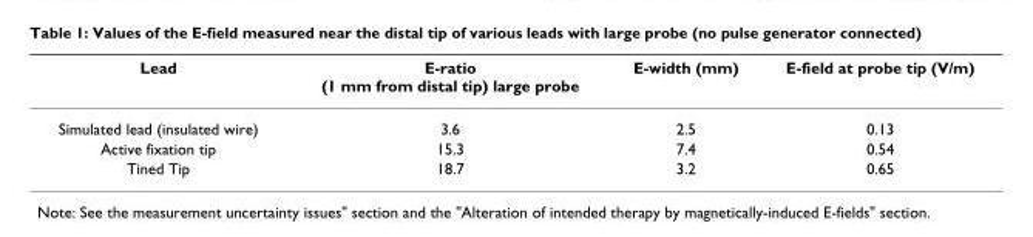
<table><thead><tr><td>Lead</td><td>E-ratio (1 mm from distal tip) large probe</td><td>E-width (mm)</td><td>E-field at probe tip (V/m)</td></tr></thead><tbody><tr><td>Simulated lead (insulated wire)</td><td>3.6</td><td>2.5</td><td>0.13</td></tr><tr><td>Active fixation tip</td><td>15.3</td><td>7.4</td><td>0.54</td></tr><tr><td>Tined Tip</td><td>18.7</td><td>3.2</td><td>0.65</td></tr></tbody></table>